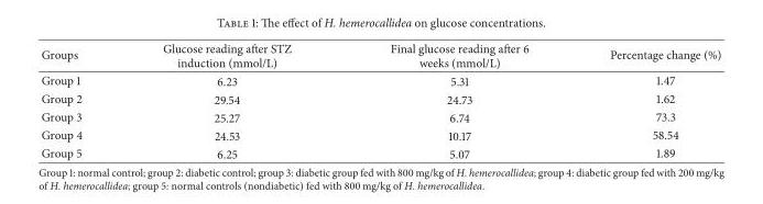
<table><thead><tr><td>Groups</td><td>Glucose reading after STZ induction (mmol/L)</td><td>Final glucose reading after 6 weeks (mmol/L)</td><td>Percentage change (%)</td></tr></thead><tbody><tr><td>Group 1</td><td>6.23</td><td>5.31</td><td>1.47</td></tr><tr><td>Group 2</td><td>29.54</td><td>24.73</td><td>1.62</td></tr><tr><td>Group 3</td><td>25.27</td><td>6.74</td><td>73.3</td></tr><tr><td>Group 4</td><td>24.53</td><td>10.17</td><td>58.54</td></tr><tr><td>Group 5</td><td>6.25</td><td>5.07</td><td>1.89</td></tr></tbody></table>